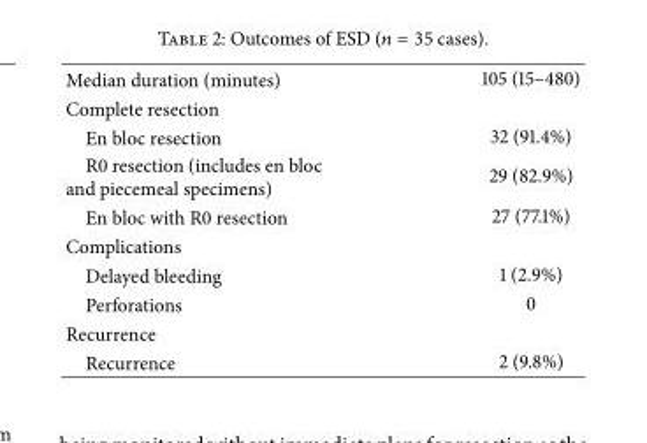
<table><tbody><tr><td>Median duration (minutes)</td><td>105 (15–480)</td></tr><tr><td colspan="2">Complete resection</td></tr><tr><td>En bloc resection</td><td>32 (91.4%)</td></tr><tr><td>R0 resection (includes en bloc and piecemeal specimens)</td><td>29 (82.9%)</td></tr><tr><td>En bloc with R0 resection</td><td>27 (77.1%)</td></tr><tr><td colspan="2">Complications</td></tr><tr><td>Delayed bleeding</td><td>1 (2.9%)</td></tr><tr><td>Perforations</td><td>0</td></tr><tr><td colspan="2">Recurrence</td></tr><tr><td>Recurrence</td><td>2 (9.8%)</td></tr></tbody></table>